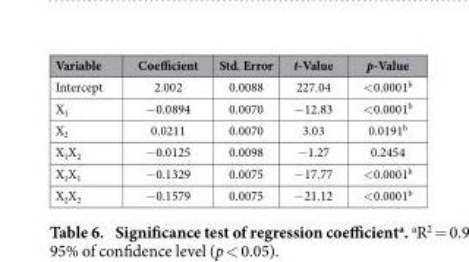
<table><thead><tr><td>Variable</td><td>Coefficient</td><td>Std. Error</td><td>t-Value</td><td>p-Value</td></tr></thead><tbody><tr><td>Intercept</td><td>2.002</td><td>0.0088</td><td>227.04</td><td>&lt; 0.0001<sup>b</sup></td></tr><tr><td>X<sub>1</sub></td><td>− 0.0894</td><td>0.0070</td><td>− 12.83</td><td>&lt; 0.0001<sup>b</sup></td></tr><tr><td>X<sub>2</sub></td><td>0.0211</td><td>0.0070</td><td>3.03</td><td>0.0191<sup>b</sup></td></tr><tr><td>X<sub>1</sub>X<sub>2</sub></td><td>− 0.0125</td><td>0.0098</td><td>− 1.27</td><td>0.2454</td></tr><tr><td>X<sub>1</sub>X<sub>1</sub></td><td>− 0.1329</td><td>0.0075</td><td>− 17.77</td><td>&lt; 0.0001<sup>b</sup></td></tr><tr><td>X<sub>2</sub>X<sub>2</sub></td><td>− 0.1579</td><td>0.0075</td><td>− 21.12</td><td>&lt; 0.0001<sup>b</sup></td></tr></tbody></table>